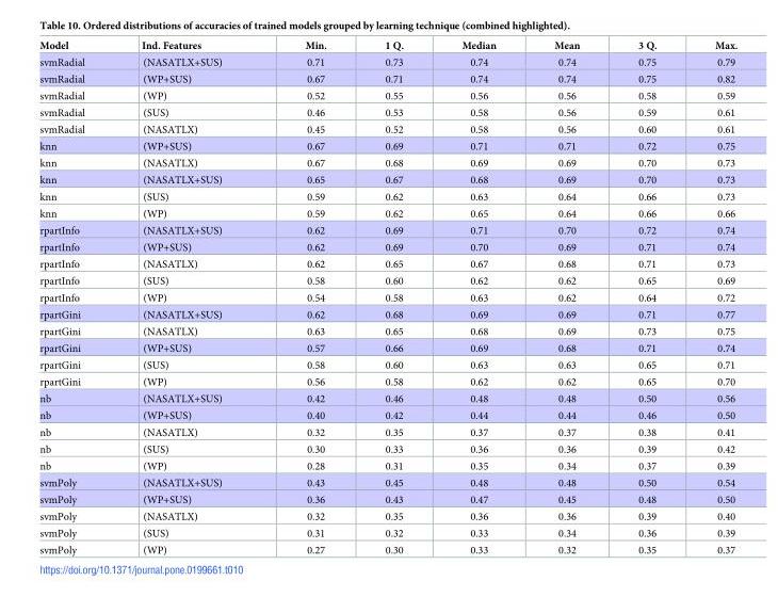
<table><thead><tr><td>Model</td><td>Ind. Features</td><td>Min.</td><td>1 Q.</td><td>Median</td><td>Mean</td><td>3 Q.</td><td>Max.</td></tr></thead><tbody><tr><td>svmRadial</td><td>(NASATLX+SUS)</td><td>0.71</td><td>0.73</td><td>0.74</td><td>0.74</td><td>0.75</td><td>0.79</td></tr><tr><td>svmRadial</td><td>(WP+SUS)</td><td>0.67</td><td>0.71</td><td>0.74</td><td>0.74</td><td>0.75</td><td>0.82</td></tr><tr><td>svmRadial</td><td>(WP)</td><td>0.52</td><td>0.55</td><td>0.56</td><td>0.56</td><td>0.58</td><td>0.59</td></tr><tr><td>svmRadial</td><td>(SUS)</td><td>0.46</td><td>0.53</td><td>0.58</td><td>0.56</td><td>0.59</td><td>0.61</td></tr><tr><td>svmRadial</td><td>(NASATLX)</td><td>0.45</td><td>0.52</td><td>0.58</td><td>0.56</td><td>0.60</td><td>0.61</td></tr><tr><td>knn</td><td>(WP+SUS)</td><td>0.67</td><td>0.69</td><td>0.71</td><td>0.71</td><td>0.72</td><td>0.75</td></tr><tr><td>knn</td><td>(NASATLX)</td><td>0.67</td><td>0.68</td><td>0.69</td><td>0.69</td><td>0.70</td><td>0.73</td></tr><tr><td>knn</td><td>(NASATLX+SUS)</td><td>0.65</td><td>0.67</td><td>0.68</td><td>0.69</td><td>0.70</td><td>0.73</td></tr><tr><td>knn</td><td>(SUS)</td><td>0.59</td><td>0.62</td><td>0.63</td><td>0.64</td><td>0.66</td><td>0.73</td></tr><tr><td>knn</td><td>(WP)</td><td>0.59</td><td>0.62</td><td>0.65</td><td>0.64</td><td>0.66</td><td>0.66</td></tr><tr><td>rpartInfo</td><td>(NASATLX+SUS)</td><td>0.62</td><td>0.69</td><td>0.71</td><td>0.70</td><td>0.72</td><td>0.74</td></tr><tr><td>rpartInfo</td><td>(WP+SUS)</td><td>0.62</td><td>0.69</td><td>0.70</td><td>0.69</td><td>0.71</td><td>0.74</td></tr><tr><td>rpartInfo</td><td>(NASATLX)</td><td>0.62</td><td>0.65</td><td>0.67</td><td>0.68</td><td>0.71</td><td>0.73</td></tr><tr><td>rpartInfo</td><td>(SUS)</td><td>0.58</td><td>0.60</td><td>0.62</td><td>0.62</td><td>0.65</td><td>0.69</td></tr><tr><td>rpartInfo</td><td>(WP)</td><td>0.54</td><td>0.58</td><td>0.63</td><td>0.62</td><td>0.64</td><td>0.72</td></tr><tr><td>rpartGini</td><td>(NASATLX+SUS)</td><td>0.62</td><td>0.68</td><td>0.69</td><td>0.69</td><td>0.71</td><td>0.77</td></tr><tr><td>rpartGini</td><td>(NASATLX)</td><td>0.63</td><td>0.65</td><td>0.68</td><td>0.69</td><td>0.73</td><td>0.75</td></tr><tr><td>rpartGini</td><td>(WP+SUS)</td><td>0.57</td><td>0.66</td><td>0.69</td><td>0.68</td><td>0.71</td><td>0.74</td></tr><tr><td>rpartGini</td><td>(SUS)</td><td>0.58</td><td>0.60</td><td>0.63</td><td>0.63</td><td>0.65</td><td>0.71</td></tr><tr><td>rpartGini</td><td>(WP)</td><td>0.56</td><td>0.58</td><td>0.62</td><td>0.62</td><td>0.65</td><td>0.70</td></tr><tr><td>nb</td><td>(NASATLX+SUS)</td><td>0.42</td><td>0.46</td><td>0.48</td><td>0.48</td><td>0.50</td><td>0.56</td></tr><tr><td>nb</td><td>(WP+SUS)</td><td>0.40</td><td>0.42</td><td>0.44</td><td>0.44</td><td>0.46</td><td>0.50</td></tr><tr><td>nb</td><td>(NASATLX)</td><td>0.32</td><td>0.35</td><td>0.37</td><td>0.37</td><td>0.38</td><td>0.41</td></tr><tr><td>nb</td><td>(SUS)</td><td>0.30</td><td>0.33</td><td>0.36</td><td>0.36</td><td>0.39</td><td>0.42</td></tr><tr><td>nb</td><td>(WP)</td><td>0.28</td><td>0.31</td><td>0.35</td><td>0.34</td><td>0.37</td><td>0.39</td></tr><tr><td>svmPoly</td><td>(NASATLX+SUS)</td><td>0.43</td><td>0.45</td><td>0.48</td><td>0.48</td><td>0.50</td><td>0.54</td></tr><tr><td>svmPoly</td><td>(WP+SUS)</td><td>0.36</td><td>0.43</td><td>0.47</td><td>0.45</td><td>0.48</td><td>0.50</td></tr><tr><td>svmPoly</td><td>(NASATLX)</td><td>0.32</td><td>0.35</td><td>0.36</td><td>0.36</td><td>0.39</td><td>0.40</td></tr><tr><td>svmPoly</td><td>(SUS)</td><td>0.31</td><td>0.32</td><td>0.33</td><td>0.34</td><td>0.36</td><td>0.39</td></tr><tr><td>svmPoly</td><td>(WP)</td><td>0.27</td><td>0.30</td><td>0.33</td><td>0.32</td><td>0.35</td><td>0.37</td></tr></tbody></table>